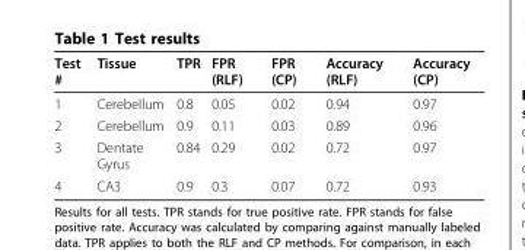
<table><thead><tr><td>Test #</td><td>Tissue</td><td>TPR</td><td>FPR (RLF)</td><td>FPR (CP)</td><td>Accuracy (RLF)</td><td>Accuracy (CP)</td></tr></thead><tbody><tr><td>1</td><td>Cerebellum</td><td>0.8</td><td>0.05</td><td>0.02</td><td>0.94</td><td>0.97</td></tr><tr><td>2</td><td>Cerebellum</td><td>0.9</td><td>0.11</td><td>0.03</td><td>0.89</td><td>0.96</td></tr><tr><td>3</td><td>Dentate Gyrus</td><td>0.84</td><td>0.29</td><td>0.02</td><td>0.72</td><td>0.97</td></tr><tr><td>4</td><td>CA3</td><td>0.9</td><td>0.3</td><td>0.07</td><td>0.72</td><td>0.93</td></tr></tbody></table>